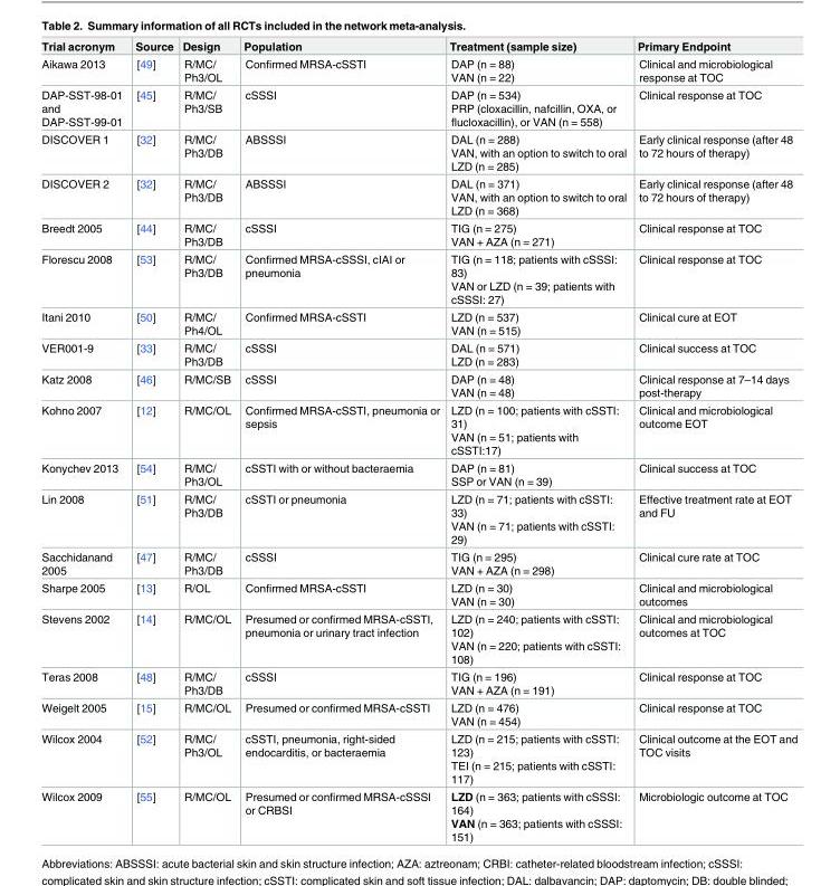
<table><thead><tr><td>Trial acronym</td><td>Source</td><td>Design</td><td>Population</td><td>Treatment (sample size)</td><td>Primary Endpoint</td></tr></thead><tbody><tr><td>Aikawa 2013</td><td>[49]</td><td>R/MC/ Ph3/OL</td><td>Confirmed MRSA-cSSTI</td><td>DAP (n = 88) VAN (n = 22)</td><td>Clinical and microbiological response at TOC</td></tr><tr><td>DAP-SST-98-01 and DAP-SST-99-01</td><td>[45]</td><td>R/MC/ Ph3/SB</td><td>cSSSI</td><td>DAP (n = 534) PRP (cloxacillin, nafcillin, OXA, or flucloxacillin), or VAN (n = 558)</td><td>Clinical response at TOC</td></tr><tr><td>DISCOVER 1</td><td>[32]</td><td>R/MC/ Ph3/DB</td><td>ABSSSI</td><td>DAL (n = 288) VAN, with an option to switch to oral LZD (n = 285)</td><td>Early clinical response (after 48 to 72 hours of therapy)</td></tr><tr><td>DISCOVER 2</td><td>[32]</td><td>R/MC/ Ph3/DB</td><td>ABSSSI</td><td>DAL (n = 371) VAN, with an option to switch to oral LZD (n = 368)</td><td>Early clinical response (after 48 to 72 hours of therapy)</td></tr><tr><td>Breedt 2005</td><td>[44]</td><td>R/MC/ Ph3/DB</td><td>cSSSI</td><td>TIG (n = 275) VAN + AZA (n = 271)</td><td>Clinical response at TOC</td></tr><tr><td>Florescu 2008</td><td>[53]</td><td>R/MC/ Ph3/DB</td><td>Confirmed MRSA-cSSSI, cIAI or pneumonia</td><td>TIG (n = 118; patients with cSSSI: 83) VAN or LZD (n = 39; patients with cSSSI: 27)</td><td>Clinical response at TOC</td></tr><tr><td>Itani 2010</td><td>[50]</td><td>R/MC/ Ph4/OL</td><td>Confirmed MRSA-cSSTI</td><td>LZD (n = 537) VAN (n = 515)</td><td>Clinical cure at EOT</td></tr><tr><td>VER001-9</td><td>[33]</td><td>R/MC/ Ph3/DB</td><td>cSSSI</td><td>DAL (n = 571) LZD (n = 283)</td><td>Clinical success at TOC</td></tr><tr><td>Katz 2008</td><td>[46]</td><td>R/MC/SB</td><td>cSSSI</td><td>DAP (n = 48) VAN (n = 48)</td><td>Clinical response at 7–14 days post-therapy</td></tr><tr><td>Kohno 2007</td><td>[12]</td><td>R/MC/OL</td><td>Confirmed MRSA-cSSTI, pneumonia or sepsis</td><td>LZD (n = 100; patients with cSSTI: 31) VAN (n = 51; patients with cSSTI:17)</td><td>Clinical and microbiological outcome EOT</td></tr><tr><td>Konychev 2013</td><td>[54]</td><td>R/MC/ Ph3/OL</td><td>cSSTI with or without bacteraemia</td><td>DAP (n = 81) SSP or VAN (n = 39)</td><td>Clinical success at TOC</td></tr><tr><td>Lin 2008</td><td>[51]</td><td>R/MC/ Ph3/DB</td><td>cSSTI or pneumonia</td><td>LZD (n = 71; patients with cSSTI: 33) VAN (n = 71; patients with cSSTI: 29)</td><td>Effective treatment rate at EOT and FU</td></tr><tr><td>Sacchidanand 2005</td><td>[47]</td><td>R/MC/ Ph3/DB</td><td>cSSSI</td><td>TIG (n = 295) VAN + AZA (n = 298)</td><td>Clinical cure rate at TOC</td></tr><tr><td>Sharpe 2005</td><td>[13]</td><td>R/OL</td><td>Confirmed MRSA-cSSTI</td><td>LZD (n = 30) VAN (n = 30)</td><td>Clinical and microbiological outcomes</td></tr><tr><td>Stevens 2002</td><td>[14]</td><td>R/MC/OL</td><td>Presumed or confirmed MRSA-cSSTI, pneumonia or urinary tract infection</td><td>LZD (n = 240; patients with cSSTI: 102) VAN (n = 220; patients with cSSTI: 108)</td><td>Clinical and microbiological outcomes at TOC</td></tr><tr><td>Teras 2008</td><td>[48]</td><td>R/MC/ Ph3/DB</td><td>cSSSI</td><td>TIG (n = 196) VAN + AZA (n = 191)</td><td>Clinical response at TOC</td></tr><tr><td>Weigelt 2005</td><td>[15]</td><td>R/MC/OL</td><td>Presumed or confirmed MRSA-cSSTI</td><td>LZD (n = 476) VAN (n = 454)</td><td>Clinical response at TOC</td></tr><tr><td>Wilcox 2004</td><td>[52]</td><td>R/MC/ Ph3/OL</td><td>cSSTI, pneumonia, right-sided endocarditis, or bacteraemia</td><td>LZD (n = 215; patients with cSSTI: 123) TEI (n = 215; patients with cSSTI: 117)</td><td>Clinical outcome at the EOT and TOC visits</td></tr><tr><td>Wilcox 2009</td><td>[55]</td><td>R/MC/OL</td><td>Presumed or confirmed MRSA-cSSSI or CRBSI</td><td>LZD (n = 363; patients with cSSSI: 164) VAN (n = 363; patients with cSSSI: 151)</td><td>Microbiologic outcome at TOC</td></tr></tbody></table>